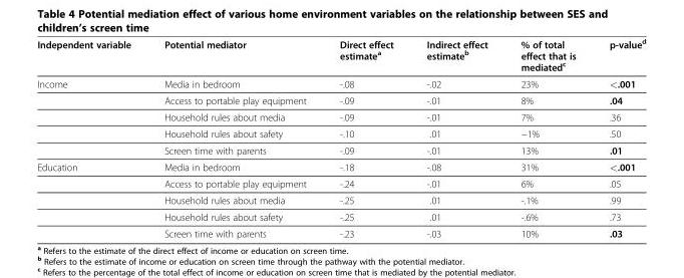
<table><thead><tr><td>Independent variable</td><td>Potential mediator</td><td>Direct effect estimate<sup>a</sup></td><td>Indirect effect estimate<sup>b</sup></td><td>% of total effect that is mediated<sup>c</sup></td><td>p-value<sup>d</sup></td></tr></thead><tbody><tr><td rowspan="5">Income</td><td>Media in bedroom</td><td>-.08</td><td>-.02</td><td>23%</td><td>&lt;.001</td></tr><tr><td>Access to portable play equipment</td><td>-.09</td><td>-.01</td><td>8%</td><td>.04</td></tr><tr><td>Household rules about media</td><td>-.09</td><td>-.01</td><td>7%</td><td>.36</td></tr><tr><td>Household rules about safety</td><td>-.10</td><td>.01</td><td>−1%</td><td>.50</td></tr><tr><td>Screen time with parents</td><td>-.09</td><td>-.01</td><td>13%</td><td>.01</td></tr><tr><td rowspan="5">Education</td><td>Media in bedroom</td><td>-.18</td><td>-.08</td><td>31%</td><td>&lt;.001</td></tr><tr><td>Access to portable play equipment</td><td>-.24</td><td>-.01</td><td>6%</td><td>.05</td></tr><tr><td>Household rules about media</td><td>-.25</td><td>.01</td><td>-.1%</td><td>.99</td></tr><tr><td>Household rules about safety</td><td>-.25</td><td>.01</td><td>-.6%</td><td>.73</td></tr><tr><td>Screen time with parents</td><td>-.23</td><td>-.03</td><td>10%</td><td>.03</td></tr></tbody></table>